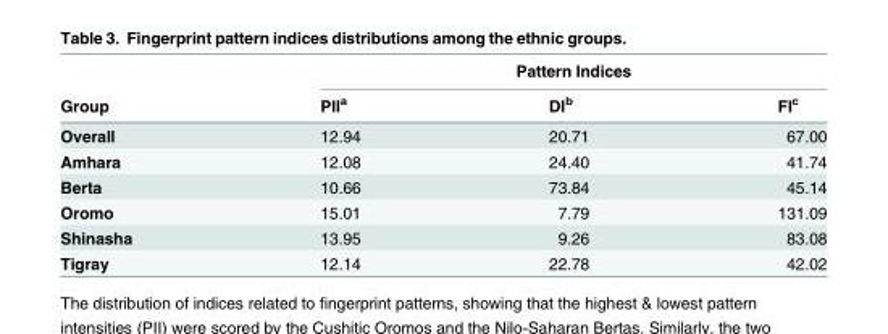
<table><thead><tr><td rowspan="2">Group</td><td colspan="3">Pattern Indices</td></tr><tr><td>PII<sup>a</sup></td><td>DI<sup>b</sup></td><td>FI<sup>c</sup></td></tr></thead><tbody><tr><td>Overall</td><td>12.94</td><td>20.71</td><td>67.00</td></tr><tr><td>Amhara</td><td>12.08</td><td>24.40</td><td>41.74</td></tr><tr><td>Berta</td><td>10.66</td><td>73.84</td><td>45.14</td></tr><tr><td>Oromo</td><td>15.01</td><td>7.79</td><td>131.09</td></tr><tr><td>Shinasha</td><td>13.95</td><td>9.26</td><td>83.08</td></tr><tr><td>Tigray</td><td>12.14</td><td>22.78</td><td>42.02</td></tr></tbody></table>